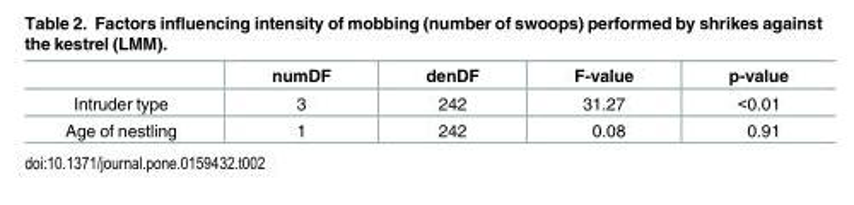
<table><thead><tr><td></td><td>numDF</td><td>denDF</td><td>F-value</td><td>p-value</td></tr></thead><tbody><tr><td>Intruder type</td><td>3</td><td>242</td><td>31.27</td><td>&lt;0.01</td></tr><tr><td>Age of nestling</td><td>1</td><td>242</td><td>0.08</td><td>0.91</td></tr></tbody></table>